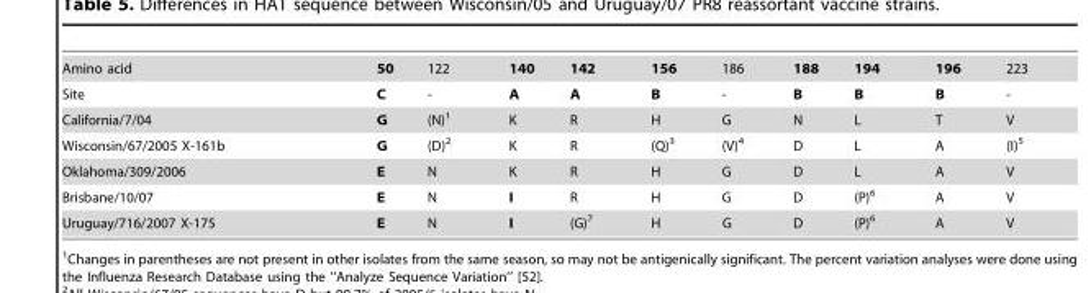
<table><tbody><tr><td>Amino acid</td><td>50</td><td>122</td><td>140</td><td>142</td><td>156</td><td>186</td><td>188</td><td>194</td><td>196</td><td>223</td></tr><tr><td>Site</td><td>C</td><td>-</td><td>A</td><td>A</td><td>B</td><td>-</td><td>B</td><td>B</td><td>B</td><td>-</td></tr><tr><td>California/7/04</td><td>G</td><td>(N)<sup>1</sup></td><td>K</td><td>R</td><td>H</td><td>G</td><td>N</td><td>L</td><td>T</td><td>V</td></tr><tr><td>Wisconsin/67/2005 X-161b</td><td>G</td><td>(D)<sup>2</sup></td><td>K</td><td>R</td><td>(Q)<sup>3</sup></td><td>(V)<sup>4</sup></td><td>D</td><td>L</td><td>A</td><td>(I)<sup>5</sup></td></tr><tr><td>Oklahoma/309/2006</td><td>E</td><td>N</td><td>K</td><td>R</td><td>H</td><td>G</td><td>D</td><td>L</td><td>A</td><td>V</td></tr><tr><td>Brisbane/10/07</td><td>E</td><td>N</td><td>I</td><td>R</td><td>H</td><td>G</td><td>D</td><td>(P)<sup>6</sup></td><td>A</td><td>V</td></tr><tr><td>Uruguay/716/2007 X-175</td><td>E</td><td>N</td><td>I</td><td>(G)<sup>7</sup></td><td>H</td><td>G</td><td>D</td><td>(P)<sup>6</sup></td><td>A</td><td>V</td></tr></tbody></table>